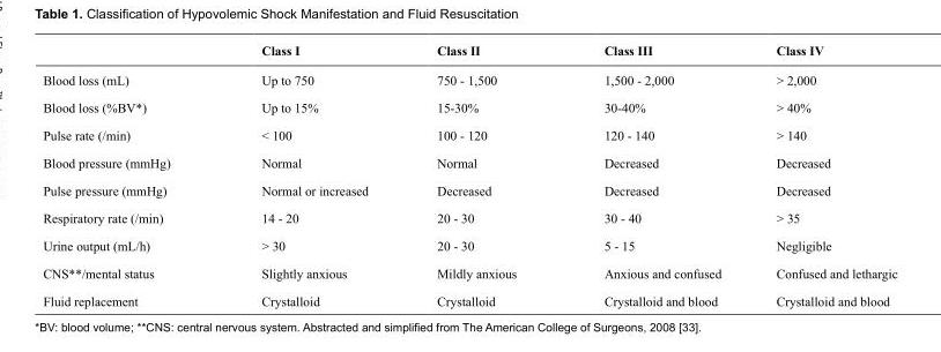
<table><thead><tr><td></td><td>Class I</td><td>Class II</td><td>Class III</td><td>Class IV</td></tr></thead><tbody><tr><td>Blood loss (mL)</td><td>Up to 750</td><td>750 - 1,500</td><td>1,500 - 2,000</td><td>&gt; 2,000</td></tr><tr><td>Blood loss (%BV*)</td><td>Up to 15%</td><td>15-30%</td><td>30-40%</td><td>&gt; 40%</td></tr><tr><td>Pulse rate (/min)</td><td>&lt; 100</td><td>100 - 120</td><td>120 - 140</td><td>&gt; 140</td></tr><tr><td>Blood pressure (mmHg)</td><td>Normal</td><td>Normal</td><td>Decreased</td><td>Decreased</td></tr><tr><td>Pulse pressure (mmHg)</td><td>Normal or increased</td><td>Decreased</td><td>Decreased</td><td>Decreased</td></tr><tr><td>Respiratory rate (/min)</td><td>14 - 20</td><td>20 - 30</td><td>30 - 40</td><td>&gt; 35</td></tr><tr><td>Urine output (mL/h)</td><td>&gt; 30</td><td>20 - 30</td><td>5 - 15</td><td>Negligible</td></tr><tr><td>CNS**/mental status</td><td>Slightly anxious</td><td>Mildly anxious</td><td>Anxious and confused</td><td>Confused and lethargic</td></tr><tr><td>Fluid replacement</td><td>Crystalloid</td><td>Crystalloid</td><td>Crystalloid and blood</td><td>Crystalloid and blood</td></tr></tbody></table>